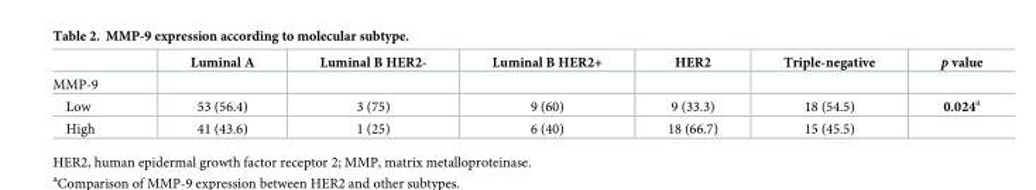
<table><thead><tr><td></td><td>Luminal A</td><td>Luminal B HER2-</td><td>Luminal B HER2+</td><td>HER2</td><td>Triple-negative</td><td>p value</td></tr></thead><tbody><tr><td colspan="7">MMP-9</td></tr><tr><td>Low</td><td>53 (56.4)</td><td>3 (75)</td><td>9 (60)</td><td>9 (33.3)</td><td>18 (54.5)</td><td>0.024<sup>a</sup></td></tr><tr><td>High</td><td>41 (43.6)</td><td>1 (25)</td><td>6 (40)</td><td>18 (66.7)</td><td>15 (45.5)</td><td></td></tr></tbody></table>